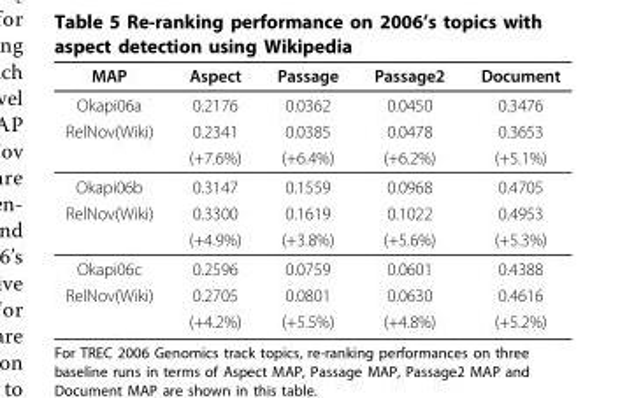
<table><thead><tr><td>MAP</td><td>Aspect</td><td>Passage</td><td>Passage2</td><td>Document</td></tr></thead><tbody><tr><td>Okapi06a</td><td>0.2176</td><td>0.0362</td><td>0.0450</td><td>0.3476</td></tr><tr><td rowspan="2">RelNov(Wiki)</td><td>0.2341</td><td>0.0385</td><td>0.0478</td><td>0.3653</td></tr><tr><td>(+7.6%)</td><td>(+6.4%)</td><td>(+6.2%)</td><td>(+5.1%)</td></tr><tr><td>Okapi06b</td><td>0.3147</td><td>0.1559</td><td>0.0968</td><td>0.4705</td></tr><tr><td rowspan="2">RelNov(Wiki)</td><td>0.3300</td><td>0.1619</td><td>0.1022</td><td>0.4953</td></tr><tr><td>(+4.9%)</td><td>(+3.8%)</td><td>(+5.6%)</td><td>(+5.3%)</td></tr><tr><td>Okapi06c</td><td>0.2596</td><td>0.0759</td><td>0.0601</td><td>0.4388</td></tr><tr><td rowspan="2">RelNov(Wiki)</td><td>0.2705</td><td>0.0801</td><td>0.0630</td><td>0.4616</td></tr><tr><td>(+4.2%)</td><td>(+5.5%)</td><td>(+4.8%)</td><td>(+5.2%)</td></tr></tbody></table>